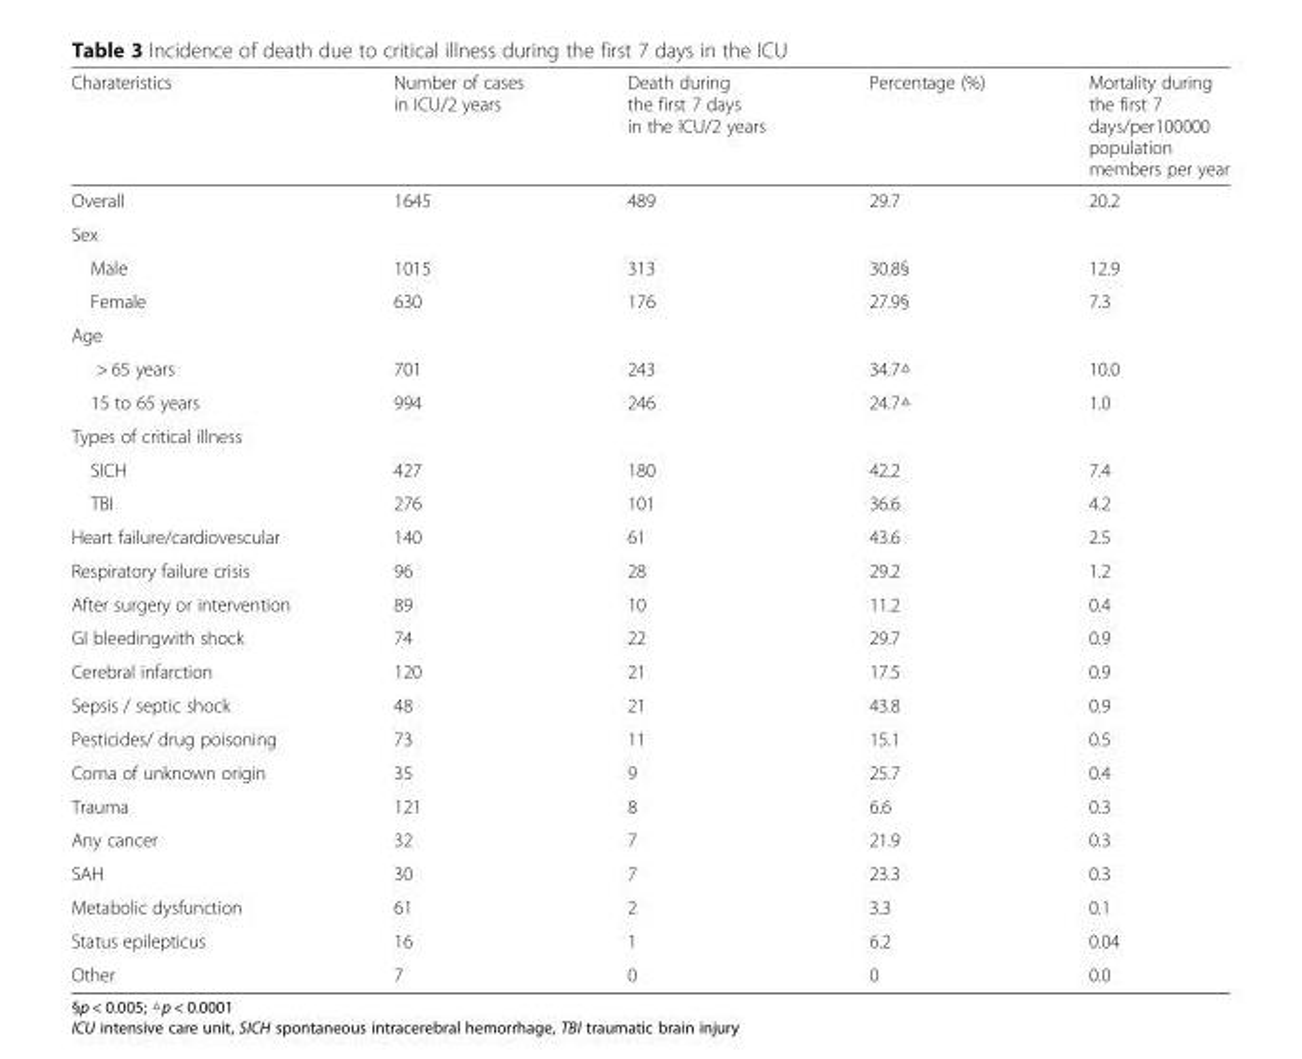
<table><thead><tr><td>Charateristics</td><td>Number of cases in ICU/2 years</td><td>Death during the first 7 days in the ICU/2 years</td><td>Percentage (%)</td><td>Mortality during the first 7 days/per100000 population members per year</td></tr></thead><tbody><tr><td>Overall</td><td>1645</td><td>489</td><td>29.7</td><td>20.2</td></tr><tr><td colspan="5">Sex</td></tr><tr><td>Male</td><td>1015</td><td>313</td><td>30.8§</td><td>12.9</td></tr><tr><td>Female</td><td>630</td><td>176</td><td>27.9§</td><td>7.3</td></tr><tr><td colspan="5">Age</td></tr><tr><td>&gt; 65 years</td><td>701</td><td>243</td><td>34.7△</td><td>10.0</td></tr><tr><td>15 to 65 years</td><td>994</td><td>246</td><td>24.7△</td><td>1.0</td></tr><tr><td colspan="5">Types of critical illness</td></tr><tr><td>SICH</td><td>427</td><td>180</td><td>42.2</td><td>7.4</td></tr><tr><td>TBI</td><td>276</td><td>101</td><td>36.6</td><td>4.2</td></tr><tr><td>Heart failure/cardiovescular</td><td>140</td><td>61</td><td>43.6</td><td>2.5</td></tr><tr><td>Respiratory failure crisis</td><td>96</td><td>28</td><td>29.2</td><td>1.2</td></tr><tr><td>After surgery or intervention</td><td>89</td><td>10</td><td>11.2</td><td>0.4</td></tr><tr><td>GI bleedingwith shock</td><td>74</td><td>22</td><td>29.7</td><td>0.9</td></tr><tr><td>Cerebral infarction</td><td>120</td><td>21</td><td>17.5</td><td>0.9</td></tr><tr><td>Sepsis / septic shock</td><td>48</td><td>21</td><td>43.8</td><td>0.9</td></tr><tr><td>Pesticides/ drug poisoning</td><td>73</td><td>11</td><td>15.1</td><td>0.5</td></tr><tr><td>Coma of unknown origin</td><td>35</td><td>9</td><td>25.7</td><td>0.4</td></tr><tr><td>Trauma</td><td>121</td><td>8</td><td>6.6</td><td>0.3</td></tr><tr><td>Any cancer</td><td>32</td><td>7</td><td>21.9</td><td>0.3</td></tr><tr><td>SAH</td><td>30</td><td>7</td><td>23.3</td><td>0.3</td></tr><tr><td>Metabolic dysfunction</td><td>61</td><td>2</td><td>3.3</td><td>0.1</td></tr><tr><td>Status epilepticus</td><td>16</td><td>1</td><td>6.2</td><td>0.04</td></tr><tr><td>Other</td><td>7</td><td>0</td><td>0</td><td>0.0</td></tr></tbody></table>